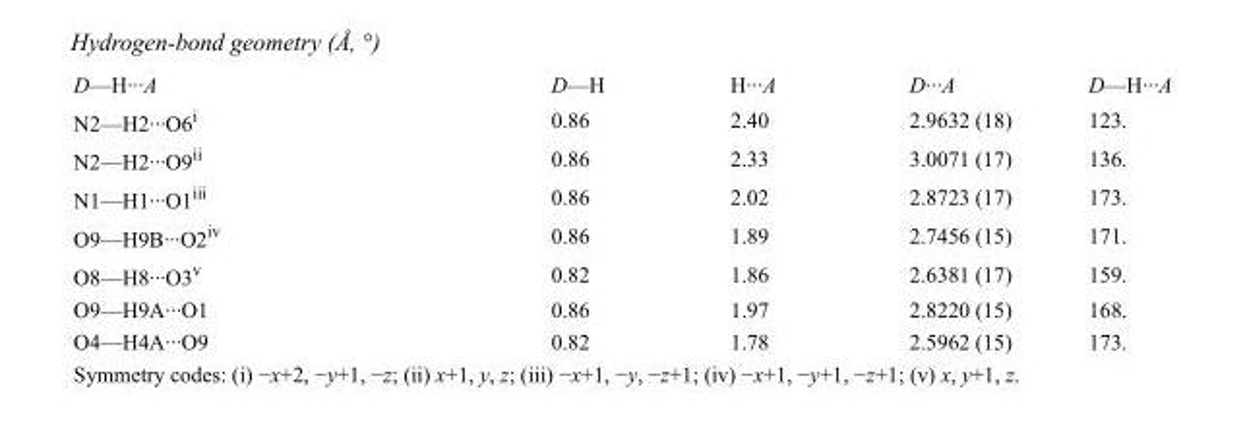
<table><tbody><tr><td>D—H···A</td><td>D—H</td><td>H···A</td><td>D···A</td><td>D—H···A</td></tr><tr><td>N2—H2···O6<sup>i</sup></td><td>0.86</td><td>2.40</td><td>2.9632 (18)</td><td>123.</td></tr><tr><td>N2—H2···O9<sup>ii</sup></td><td>0.86</td><td>2.33</td><td>3.0071 (17)</td><td>136.</td></tr><tr><td>N1—H1···O1<sup>iii</sup></td><td>0.86</td><td>2.02</td><td>2.8723 (17)</td><td>173.</td></tr><tr><td>O9—H9B···O2<sup>iv</sup></td><td>0.86</td><td>1.89</td><td>2.7456 (15)</td><td>171.</td></tr><tr><td>O8—H8···O3<sup>v</sup></td><td>0.82</td><td>1.86</td><td>2.6381 (17)</td><td>159.</td></tr><tr><td>O9—H9A···O1</td><td>0.86</td><td>1.97</td><td>2.8220 (15)</td><td>168.</td></tr><tr><td>O4—H4A···O9</td><td>0.82</td><td>1.78</td><td>2.5962 (15)</td><td>173.</td></tr></tbody></table>